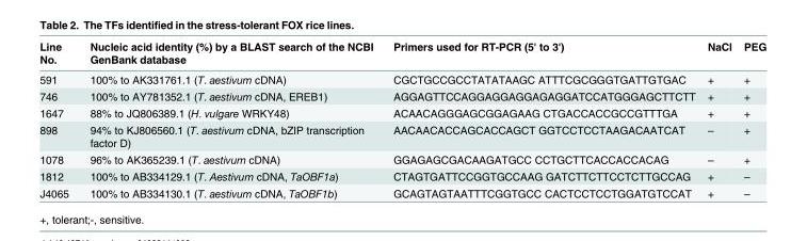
<table><thead><tr><td>Line No.</td><td>Nucleic acid identity (%) by a BLAST search of the NCBI GenBank database</td><td>Primers used for RT-PCR (5&#x27; to 3&#x27;)</td><td>NaCl</td><td>PEG</td></tr></thead><tbody><tr><td>591</td><td>100% to AK331761.1 (T. aestivum cDNA)</td><td>CGCTGCCGCCTATATAAGC ATTTCGCGGGTGATTGTGAC</td><td>+</td><td>+</td></tr><tr><td>746</td><td>100% to AY781352.1 (T. aestivum cDNA, EREB1)</td><td>AGGAGTTCCAGGAGGAGGAGAGGATCCATGGGAGCTTCTT</td><td>+</td><td>+</td></tr><tr><td>1647</td><td>88% to JQ806389.1 (H. vulgare WRKY48)</td><td>ACAACAGGGAGCGGAGAAG CTGACCACCGCCGTTTGA</td><td>+</td><td>+</td></tr><tr><td>898</td><td>94% to KJ806560.1 (T. aestivum cDNA, bZIP transcription factor D)</td><td>AACAACACCAGCACCAGCT GGTCCTCCTAAGACAATCAT</td><td>–</td><td>+</td></tr><tr><td>1078</td><td>96% to AK365239.1 (T. aestivum cDNA)</td><td>GGAGAGCGACAAGATGCC CCTGCTTCACCACCACAG</td><td>–</td><td>+</td></tr><tr><td>1812</td><td>100% to AB334129.1 (T. Aestivum cDNA, TaOBF1a)</td><td>CTAGTGATTCCGGTGCCAAG GATCTTCTTCCTCTTGCCAG</td><td>+</td><td>–</td></tr><tr><td>J4065</td><td>100% to AB334130.1 (T. aestivum cDNA, TaOBF1b)</td><td>GCAGTAGTAATTTCGGTGCC CACTCCTCCTGGATGTCCAT</td><td>+</td><td>–</td></tr></tbody></table>